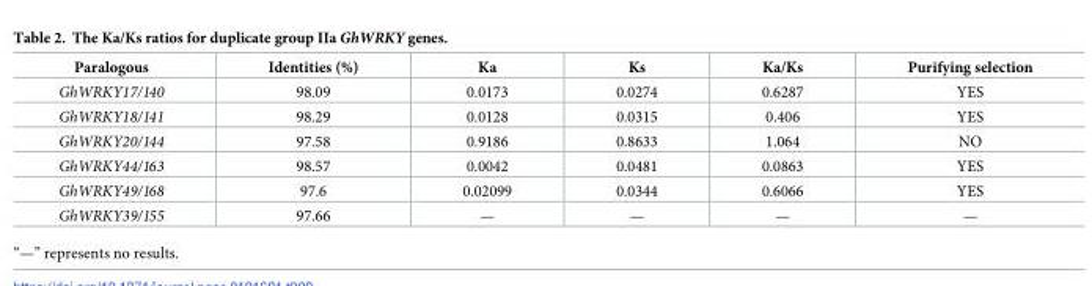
<table><thead><tr><td>Paralogous</td><td>Identities (%)</td><td>Ka</td><td>Ks</td><td>Ka/Ks</td><td>Purifying selection</td></tr></thead><tbody><tr><td>GhWRKY17/140</td><td>98.09</td><td>0.0173</td><td>0.0274</td><td>0.6287</td><td>YES</td></tr><tr><td>GhWRKY18/141</td><td>98.29</td><td>0.0128</td><td>0.0315</td><td>0.406</td><td>YES</td></tr><tr><td>GhWRKY20/144</td><td>97.58</td><td>0.9186</td><td>0.8633</td><td>1.064</td><td>NO</td></tr><tr><td>GhWRKY44/163</td><td>98.57</td><td>0.0042</td><td>0.0481</td><td>0.0863</td><td>YES</td></tr><tr><td>GhWRKY49/168</td><td>97.6</td><td>0.02099</td><td>0.0344</td><td>0.6066</td><td>YES</td></tr><tr><td>GhWRKY39/155</td><td>97.66</td><td>—</td><td>—</td><td>—</td><td>—</td></tr></tbody></table>